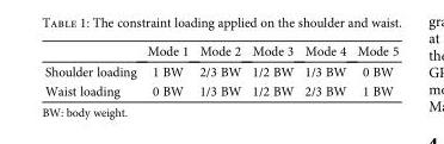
<table><thead><tr><td></td><td>Mode 1</td><td>Mode 2</td><td>Mode 3</td><td>Mode 4</td><td>Mode 5</td></tr></thead><tbody><tr><td>Shoulder loading</td><td>1 BW</td><td>2/3 BW</td><td>1/2 BW</td><td>1/3 BW</td><td>0 BW</td></tr><tr><td>Waist loading</td><td>0 BW</td><td>1/3 BW</td><td>1/2 BW</td><td>2/3 BW</td><td>1 BW</td></tr></tbody></table>